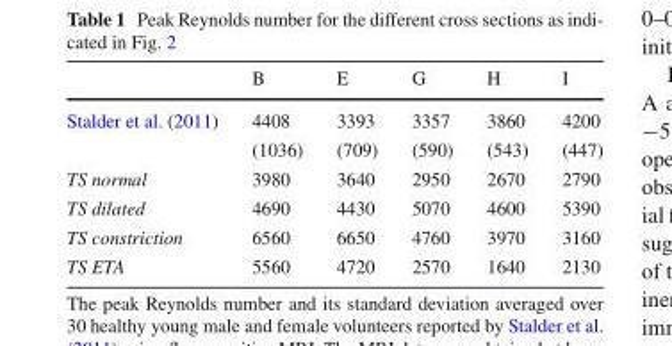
<table><thead><tr><td></td><td>B</td><td>E</td><td>G</td><td>H</td><td>I</td></tr></thead><tbody><tr><td rowspan="2">Stalder et al. (2011)</td><td>4408</td><td>3393</td><td>3357</td><td>3860</td><td>4200</td></tr><tr><td>(1036)</td><td>(709)</td><td>(590)</td><td>(543)</td><td>(447)</td></tr><tr><td>TS normal</td><td>3980</td><td>3640</td><td>2950</td><td>2670</td><td>2790</td></tr><tr><td>TS dilated</td><td>4690</td><td>4430</td><td>5070</td><td>4600</td><td>5390</td></tr><tr><td>TS constriction</td><td>6560</td><td>6650</td><td>4760</td><td>3970</td><td>3160</td></tr><tr><td>TS ETA</td><td>5560</td><td>4720</td><td>2570</td><td>1640</td><td>2130</td></tr></tbody></table>